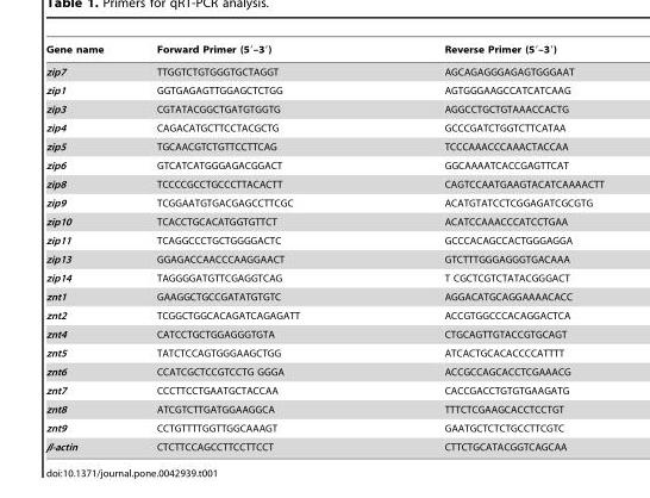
<table><thead><tr><td>Gene name</td><td>Forward Primer (5′–3′)</td><td>Reverse Primer (5′–3′)</td></tr></thead><tbody><tr><td>zip7</td><td>TTGGTCTGTGGGTGCTAGGT</td><td>AGCAGAGGGAGAGTGGGAAT</td></tr><tr><td>zip1</td><td>GGTGAGAGTTGGAGCTCTGG</td><td>AGTGGGAAGCCATCATCAAG</td></tr><tr><td>zip3</td><td>CGTATACGGCTGATGTGGTG</td><td>AGGCCTGCTGTAAACCACTG</td></tr><tr><td>zip4</td><td>CAGACATGCTTCCTACGCTG</td><td>GCCCGATCTGGTCTTCATAA</td></tr><tr><td>zip5</td><td>TGCAACGTCTGTTCCTTCAG</td><td>TCCCAAACCCAAACTACCAA</td></tr><tr><td>zip6</td><td>GTCATCATGGGAGACGGACT</td><td>GGCAAAATCACCGAGTTCAT</td></tr><tr><td>zip8</td><td>TCCCCGCCTGCCCTTACACTT</td><td>CAGTCCAATGAAGTACATCAAAACTT</td></tr><tr><td>zip9</td><td>TCGGAATGTGACGAGCCTTCGC</td><td>ACATGTATCCTCGGAGATCGCGTG</td></tr><tr><td>zip10</td><td>TCACCTGCACATGGTGTTCT</td><td>ACATCCAAACCCATCCTGAA</td></tr><tr><td>zip11</td><td>TCAGGCCCTGCTGGGGACTC</td><td>GCCCACAGCCACTGGGAGGA</td></tr><tr><td>zip13</td><td>GGAGACCAACCCAAGGAACT</td><td>GTCTTTGGGAGGGTGACAAA</td></tr><tr><td>zip14</td><td>TAGGGGATGTTCGAGGTCAG</td><td>T CGCTCGTCTATACGGGACT</td></tr><tr><td>znt1</td><td>GAAGGCTGCCGATATGTGTC</td><td>AGGACATGCAGGAAAACACC</td></tr><tr><td>znt2</td><td>TCGGCTGGCACAGATCAGAGATT</td><td>ACCGTGGCCCACAGGACTCA</td></tr><tr><td>znt4</td><td>CATCCTGCTGGAGGGTGTA</td><td>CTGCAGTTGTACCGTGCAGT</td></tr><tr><td>znt5</td><td>TATCTCCAGTGGGAAGCTGG</td><td>ATCACTGCACACCCCATTTT</td></tr><tr><td>znt6</td><td>CCATCGCTCCGTCCTG GGGA</td><td>ACCGCCAGCACCTCGAAACG</td></tr><tr><td>znt7</td><td>CCCTTCCTGAATGCTACCAA</td><td>CACCGACCTGTGTGAAGATG</td></tr><tr><td>znt8</td><td>ATCGTCTTGATGGAAGGCA</td><td>TTTCTCGAAGCACCTCCTGT</td></tr><tr><td>znt9</td><td>CCTGTTTTGGTTGGCAAAGT</td><td>GAATGCTCTCTGCCTTCGTC</td></tr><tr><td>β-actin</td><td>CTCTTCCAGCCTTCCTTCCT</td><td>CTTCTGCATACGGTCAGCAA</td></tr></tbody></table>